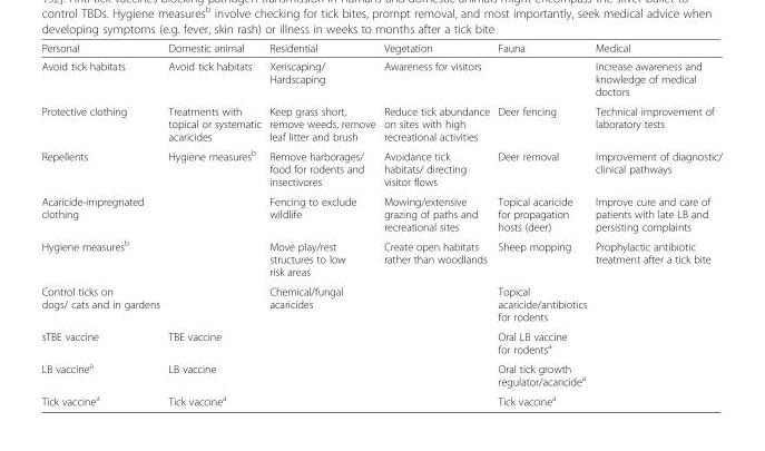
<table><thead><tr><td>Personal</td><td>Domestic animal</td><td>Residential</td><td>Vegetation</td><td>Fauna</td><td>Medical</td></tr></thead><tbody><tr><td>Avoid tick habitats</td><td>Avoid tick habitats</td><td>Xeriscaping/ Hardscaping</td><td>Awareness for visitors</td><td></td><td>Increase awareness and knowledge of medical doctors</td></tr><tr><td>Protective clothing</td><td>Treatments with topical or systematic acaricides</td><td>Keep grass short, remove weeds, remove leaf litter and brush</td><td>Reduce tick abundance on sites with high recreational activities</td><td>Deer fencing</td><td>Technical improvement of laboratory tests</td></tr><tr><td>Repellents</td><td>Hygiene measures<sup>b</sup></td><td>Remove harborages/ food for rodents and insectivores</td><td>Avoidance tick habitats/ directing visitor flows</td><td>Deer removal</td><td>Improvement of diagnostic/ clinical pathways</td></tr><tr><td>Acaricide-impregnated clothing</td><td></td><td>Fencing to exclude wildlife</td><td>Mowing/extensive grazing of paths and recreational sites</td><td>Topical acaricide for propagation hosts (deer)</td><td>Improve cure and care of patients with late LB and persisting complaints</td></tr><tr><td>Hygiene measures<sup>b</sup></td><td></td><td>Move play/rest structures to low risk areas</td><td>Create open habitats rather than woodlands</td><td>Sheep mopping</td><td>Prophylactic antibiotic treatment after a tick bite</td></tr><tr><td>Control ticks on dogs/ cats and in gardens</td><td></td><td>Chemical/fungal acaricides</td><td></td><td>Topical acaricide/antibiotics for rodents</td><td></td></tr><tr><td>sTBE vaccine</td><td>TBE vaccine</td><td></td><td></td><td>Oral LB vaccine for rodents<sup>a</sup></td><td></td></tr><tr><td>LB vaccine<sup>a</sup></td><td>LB vaccine</td><td></td><td></td><td>Oral tick growth regulator/acaricide<sup>a</sup></td><td></td></tr><tr><td>Tick vaccine<sup>a</sup></td><td>Tick vaccine<sup>a</sup></td><td></td><td></td><td>Tick vaccine<sup>a</sup></td><td></td></tr></tbody></table>